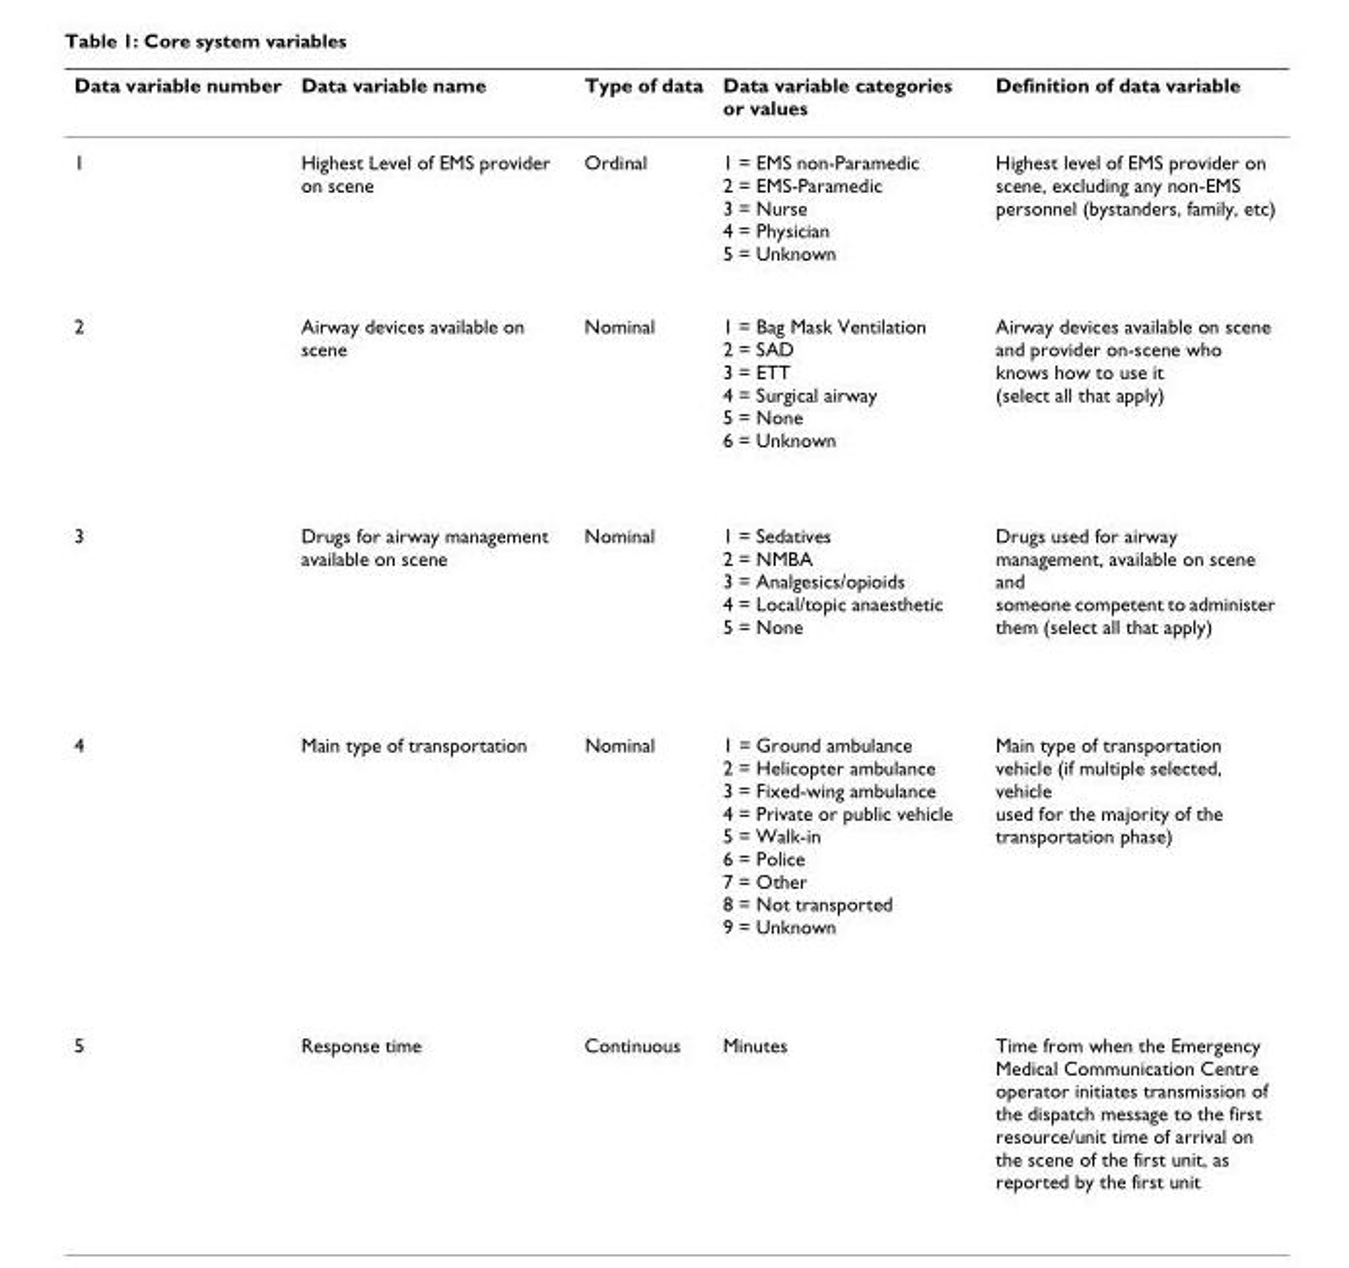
<table><thead><tr><td>Data variable number</td><td>Data variable name</td><td>Type of data</td><td>Data variable categories or values</td><td>Definition of data variable</td></tr></thead><tbody><tr><td>1</td><td>Highest Level of EMS provider on scene</td><td>Ordinal</td><td>1 = EMS non-Paramedic 2 = EMS-Paramedic 3 = Nurse 4 = Physician 5 = Unknown</td><td>Highest level of EMS provider on scene, excluding any non-EMS personnel (bystanders, family, etc)</td></tr><tr><td>2</td><td>Airway devices available on scene</td><td>Nominal</td><td>1 = Bag Mask Ventilation 2 = SAD 3 = ETT 4 = Surgical airway 5 = None 6 = Unknown</td><td>Airway devices available on scene and provider on-scene who knows how to use it (select all that apply)</td></tr><tr><td>3</td><td>Drugs for airway management available on scene</td><td>Nominal</td><td>1 = Sedatives 2 = NMBA 3 = Analgesics/opioids 4 = Local/topic anaesthetic 5 = None</td><td>Drugs used for airway management, available on scene and someone competent to administer them (select all that apply)</td></tr><tr><td>4</td><td>Main type of transportation</td><td>Nominal</td><td>1 = Ground ambulance 2 = Helicopter ambulance 3 = Fixed-wing ambulance 4 = Private or public vehicle 5 = Walk-in 6 = Police 7 = Other 8 = Not transported 9 = Unknown</td><td>Main type of transportation vehicle (if multiple selected, vehicle used for the majority of the transportation phase)</td></tr><tr><td>5</td><td>Response time</td><td>Continuous</td><td>Minutes</td><td>Time from when the Emergency Medical Communication Centre operator initiates transmission of the dispatch message to the first resource/unit time of arrival on the scene of the first unit, as reported by the first unit</td></tr></tbody></table>